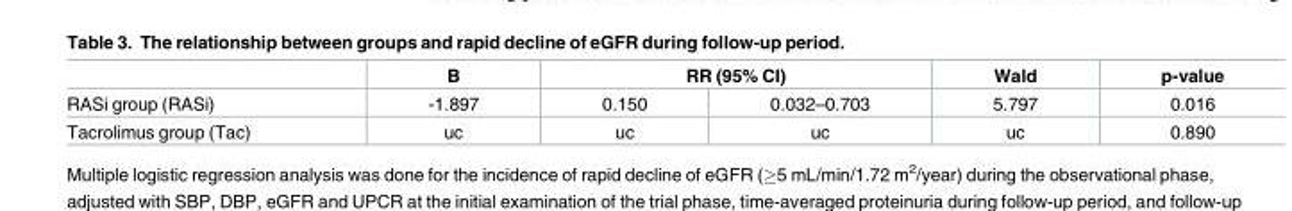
<table><thead><tr><td rowspan="2">RASi group (RASi)</td><td rowspan="2">B -1.897</td><td colspan="2">RR (95% CI)</td><td rowspan="2">Wald 5.797</td><td rowspan="2">p-value 0.016</td></tr><tr><td>0.150</td><td>0.032–0.703</td></tr></thead><tbody><tr><td>Tacrolimus group (Tac)</td><td>uc</td><td>uc</td><td>uc</td><td>uc</td><td>0.890</td></tr></tbody></table>